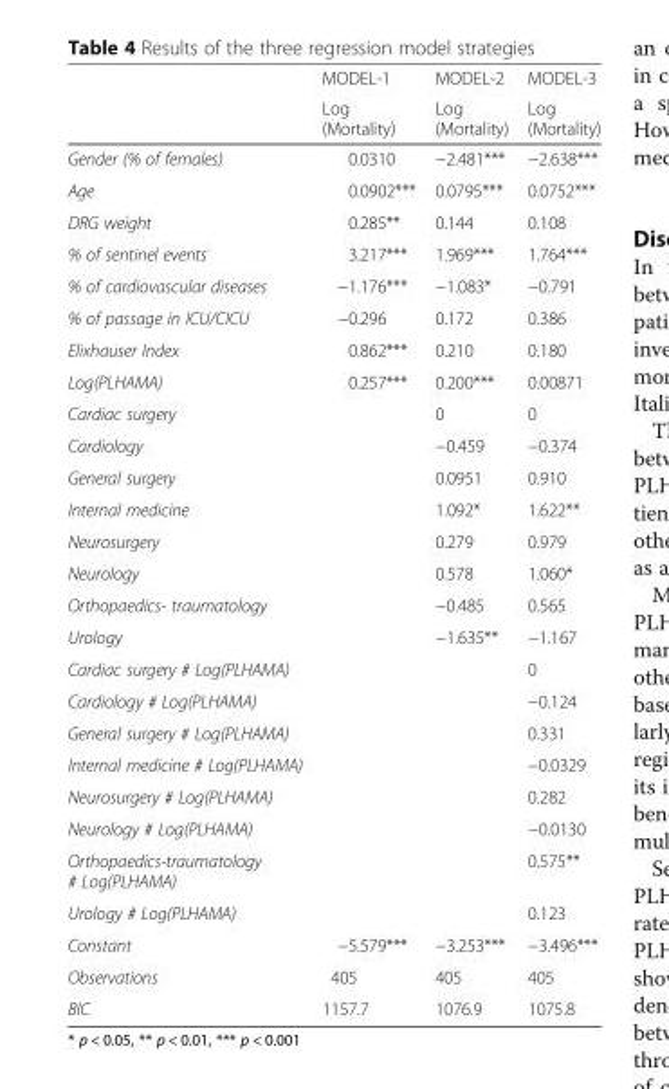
<table><thead><tr><td rowspan="2"></td><td rowspan="2">MODEL-1 Log (Mortality)</td><td rowspan="2">MODEL-2 Log (Mortality)</td><td rowspan="2">MODEL-3 Log (Mortality)</td></tr><tr></tr></thead><tbody><tr><td>Gender (% of females)</td><td>0.0310</td><td>−2.481***</td><td>−2.638***</td></tr><tr><td>Age</td><td>0.0902***</td><td>0.0795***</td><td>0.0752***</td></tr><tr><td>DRG weight</td><td>0.285**</td><td>0.144</td><td>0.108</td></tr><tr><td>% of sentinel events</td><td>3.217***</td><td>1.969***</td><td>1.764***</td></tr><tr><td>% of cardiovascular diseases</td><td>−1.176***</td><td>−1.083*</td><td>−0.791</td></tr><tr><td>% of passage in ICU/CICU</td><td>−0.296</td><td>0.172</td><td>0.386</td></tr><tr><td>Elixhauser Index</td><td>0.862***</td><td>0.210</td><td>0.180</td></tr><tr><td>Log(PLHAMA)</td><td>0.257***</td><td>0.200***</td><td>0.00871</td></tr><tr><td>Cardiac surgery</td><td></td><td>0</td><td>0</td></tr><tr><td>Cardiology</td><td></td><td>−0.459</td><td>−0.374</td></tr><tr><td>General surgery</td><td></td><td>0.0951</td><td>0.910</td></tr><tr><td>Internal medicine</td><td></td><td>1.092*</td><td>1.622**</td></tr><tr><td>Neurosurgery</td><td></td><td>0.279</td><td>0.979</td></tr><tr><td>Neurology</td><td></td><td>0.578</td><td>1.060*</td></tr><tr><td>Orthopaedics- traumatology</td><td></td><td>−0.485</td><td>0.565</td></tr><tr><td>Urology</td><td></td><td>−1.635**</td><td>−1.167</td></tr><tr><td>Cardiac surgery # Log(PLHAMA)</td><td></td><td></td><td>0</td></tr><tr><td>Cardiology # Log(PLHAMA)</td><td></td><td></td><td>−0.124</td></tr><tr><td>General surgery # Log(PLHAMA)</td><td></td><td></td><td>0.331</td></tr><tr><td>Internal medicine # Log(PLHAMA)</td><td></td><td></td><td>−0.0329</td></tr><tr><td>Neurosurgery # Log(PLHAMA)</td><td></td><td></td><td>0.282</td></tr><tr><td>Neurology # Log(PLHAMA)</td><td></td><td></td><td>−0.0130</td></tr><tr><td>Orthopaedics-traumatology # Log(PLHAMA)</td><td></td><td></td><td>0.575**</td></tr><tr><td>Urology # Log(PLHAMA)</td><td></td><td></td><td>0.123</td></tr><tr><td>Constant</td><td>−5.579***</td><td>−3.253***</td><td>−3.496***</td></tr><tr><td>Observations</td><td>405</td><td>405</td><td>405</td></tr><tr><td>BIC</td><td>1157.7</td><td>1076.9</td><td>1075.8</td></tr></tbody></table>